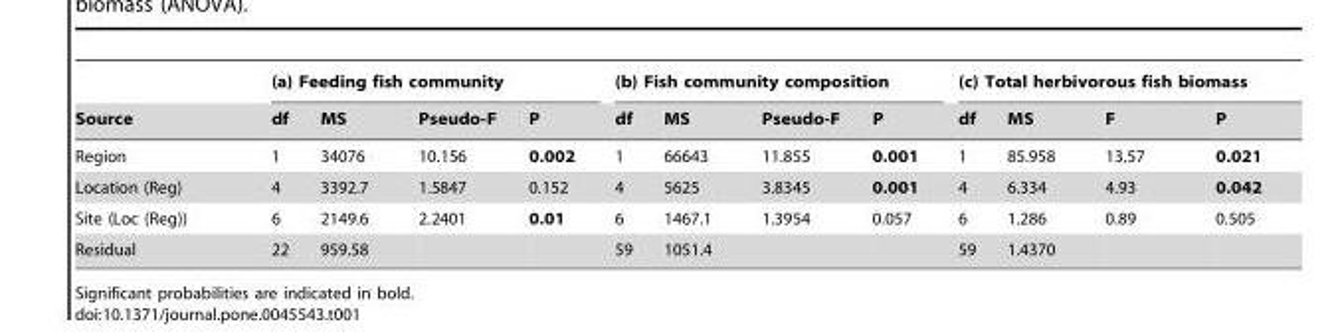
<table><thead><tr><td rowspan="2">Source</td><td colspan="4">(a) Feeding fish community</td><td colspan="4">(b) Fish community composition</td><td colspan="4">(c) Total herbivorous fish biomass</td></tr><tr><td>df</td><td>MS</td><td>Pseudo-F</td><td>P</td><td>df</td><td>MS</td><td>Pseudo-F</td><td>P</td><td>df</td><td>MS</td><td>F</td><td>P</td></tr></thead><tbody><tr><td>Region</td><td>1</td><td>34076</td><td>10.156</td><td>0.002</td><td>1</td><td>66643</td><td>11.855</td><td>0.001</td><td>1</td><td>85.958</td><td>13.57</td><td>0.021</td></tr><tr><td>Location (Reg)</td><td>4</td><td>3392.7</td><td>1.5847</td><td>0.152</td><td>4</td><td>5625</td><td>3.8345</td><td>0.001</td><td>4</td><td>6.334</td><td>4.93</td><td>0.042</td></tr><tr><td>Site (Loc (Reg))</td><td>6</td><td>2149.6</td><td>2.2401</td><td>0.01</td><td>6</td><td>1467.1</td><td>1.3954</td><td>0.057</td><td>6</td><td>1.286</td><td>0.89</td><td>0.505</td></tr><tr><td>Residual</td><td>22</td><td>959.58</td><td></td><td></td><td>59</td><td>1051.4</td><td></td><td></td><td>59</td><td>1.4370</td><td></td><td></td></tr></tbody></table>